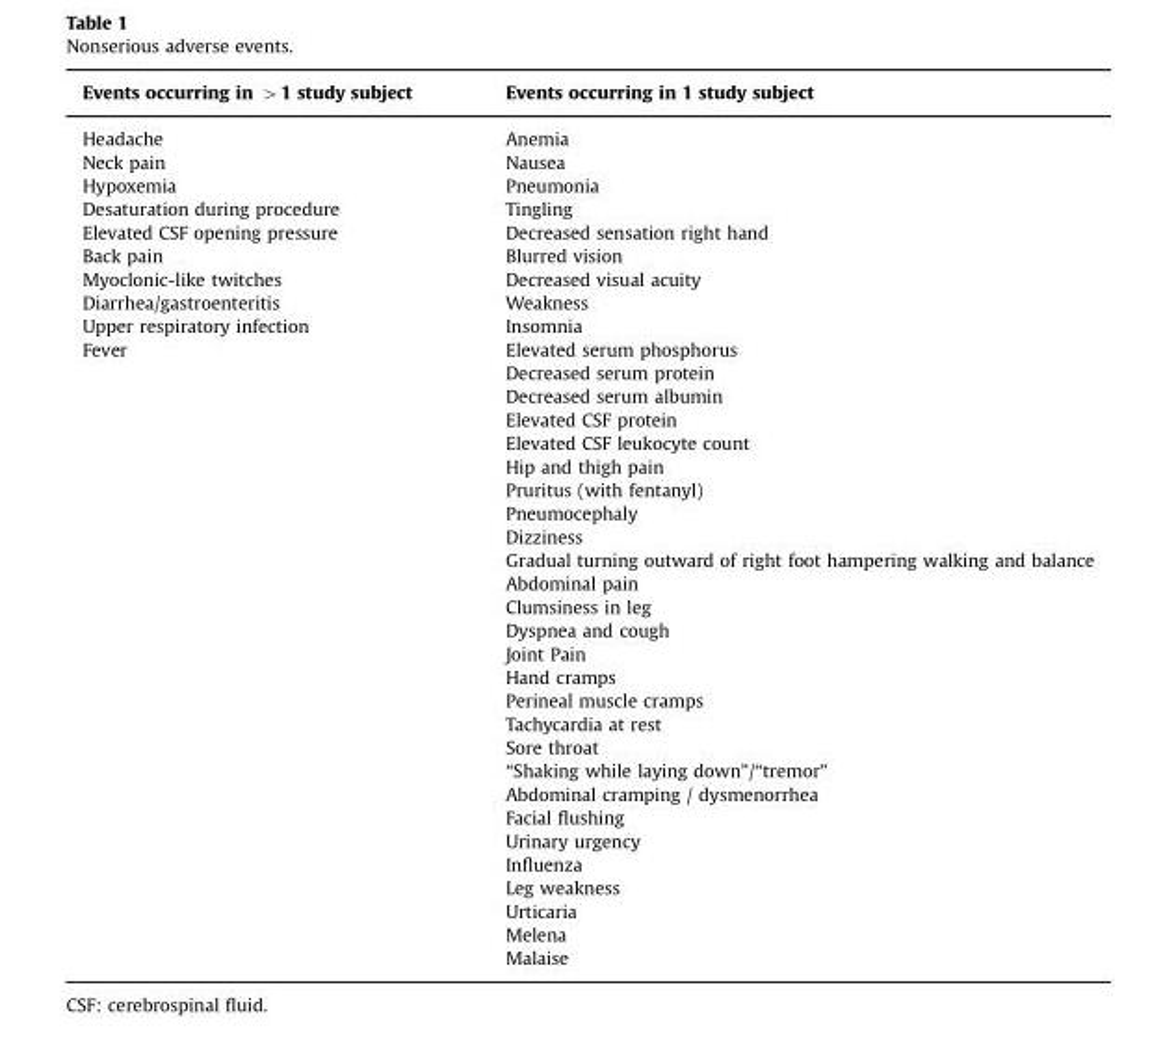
<table><thead><tr><td>Events occurring in &gt;1 study subject</td><td>Events occurring in 1 study subject</td></tr></thead><tbody><tr><td>Headache</td><td>Anemia</td></tr><tr><td>Neck pain</td><td>Nausea</td></tr><tr><td>Hypoxemia</td><td>Pneumonia</td></tr><tr><td>Desaturation during procedure</td><td>Tingling</td></tr><tr><td>Elevated CSF opening pressure</td><td>Decreased sensation right hand</td></tr><tr><td>Back pain</td><td>Blurred vision</td></tr><tr><td>Myoclonic-like twitches</td><td>Decreased visual acuity</td></tr><tr><td>Diarrhea/gastroenteritis</td><td>Weakness</td></tr><tr><td>Upper respiratory infection</td><td>Insomnia</td></tr><tr><td rowspan="27">Fever</td><td>Elevated serum phosphorus</td></tr><tr><td>Decreased serum protein</td></tr><tr><td>Decreased serum albumin</td></tr><tr><td>Elevated CSF protein</td></tr><tr><td>Elevated CSF leukocyte count</td></tr><tr><td>Hip and thigh pain</td></tr><tr><td>Pruritus (with fentanyl)</td></tr><tr><td>Pneumocephaly</td></tr><tr><td>Dizziness</td></tr><tr><td>Gradual turning outward of right foot hampering walking and balance</td></tr><tr><td>Abdominal pain</td></tr><tr><td>Clumsiness in leg</td></tr><tr><td>Dyspnea and cough</td></tr><tr><td>Joint Pain</td></tr><tr><td>Hand cramps</td></tr><tr><td>Perineal muscle cramps</td></tr><tr><td>Tachycardia at rest</td></tr><tr><td>Sore throat</td></tr><tr><td>“Shaking while laying down”/“tremor”</td></tr><tr><td>Abdominal cramping / dysmenorrhea</td></tr><tr><td>Facial flushing</td></tr><tr><td>Urinary urgency</td></tr><tr><td>Influenza</td></tr><tr><td>Leg weakness</td></tr><tr><td>Urticaria</td></tr><tr><td>Melena</td></tr><tr><td>Malaise</td></tr></tbody></table>